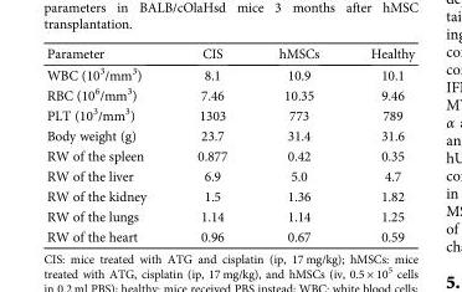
<table><thead><tr><td>Parameter</td><td>CIS</td><td>hMSCs</td><td>Healthy</td></tr></thead><tbody><tr><td>WBC (10<sup>3</sup>/mm<sup>3</sup>)</td><td>8.1</td><td>10.9</td><td>10.1</td></tr><tr><td>RBC (10<sup>6</sup>/mm<sup>3</sup>)</td><td>7.46</td><td>10.35</td><td>9.46</td></tr><tr><td>PLT (10<sup>3</sup>/mm<sup>3</sup>)</td><td>1303</td><td>773</td><td>789</td></tr><tr><td>Body weight (g)</td><td>23.7</td><td>31.4</td><td>31.6</td></tr><tr><td>RW of the spleen</td><td>0.877</td><td>0.42</td><td>0.35</td></tr><tr><td>RW of the liver</td><td>6.9</td><td>5.0</td><td>4.7</td></tr><tr><td>RW of the kidney</td><td>1.5</td><td>1.36</td><td>1.82</td></tr><tr><td>RW of the lungs</td><td>1.14</td><td>1.14</td><td>1.25</td></tr><tr><td>RW of the heart</td><td>0.96</td><td>0.67</td><td>0.59</td></tr></tbody></table>